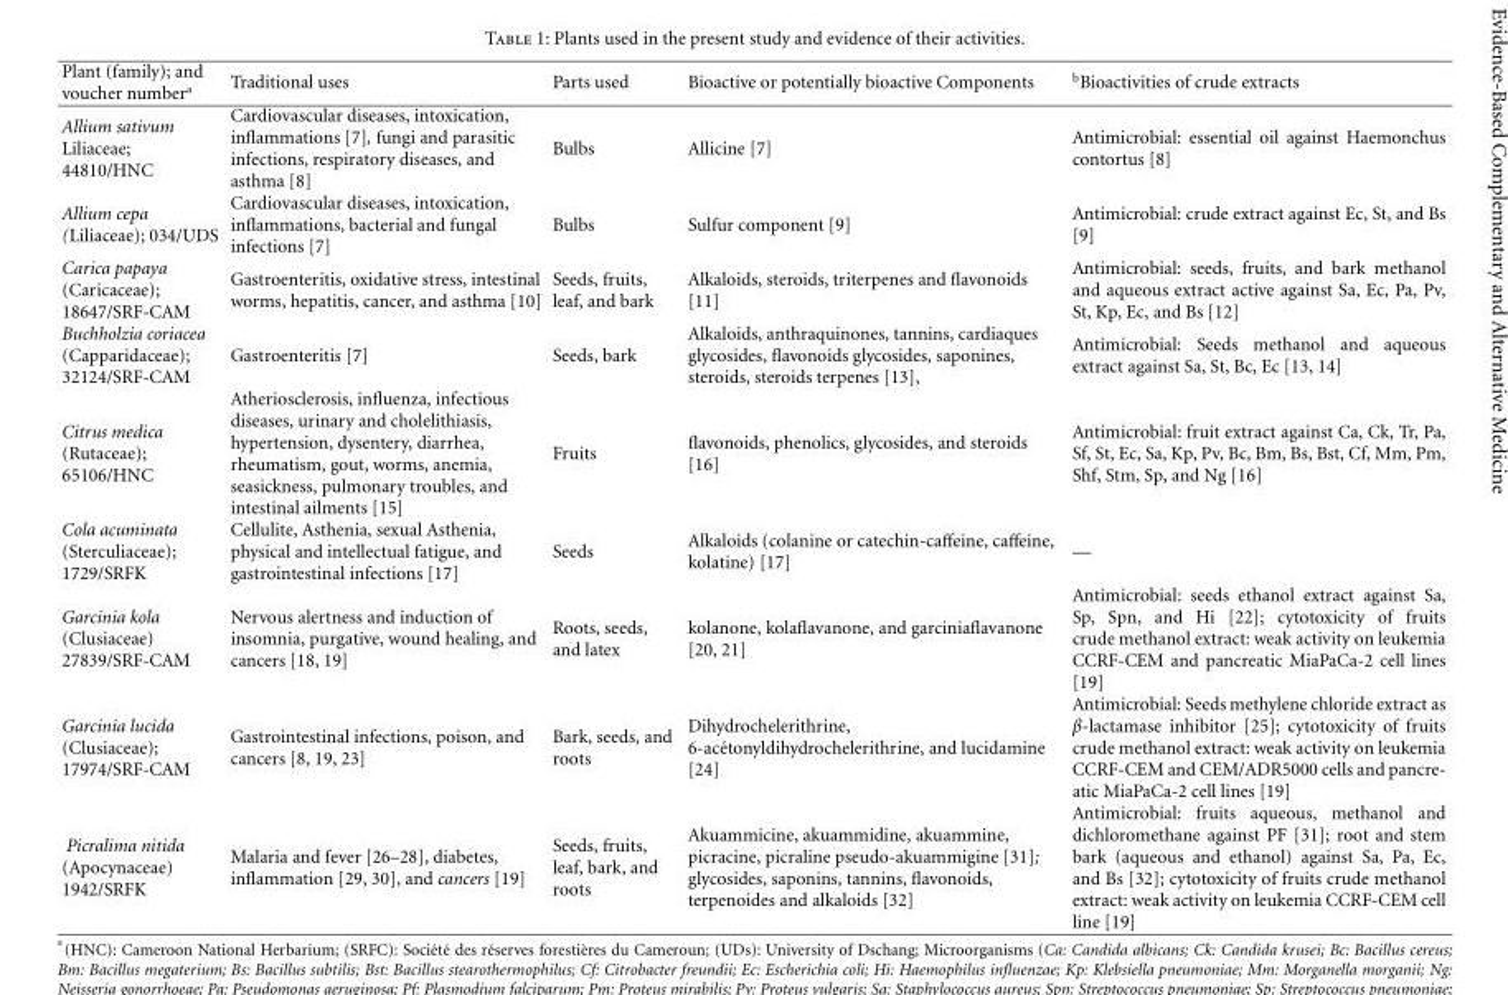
<table><thead><tr><td>Plant (family); and voucher number<sup>a</sup></td><td>Traditional uses</td><td>Parts used</td><td>Bioactive or potentially bioactive Components</td><td><sup>b</sup>Bioactivities of crude extracts</td></tr></thead><tbody><tr><td>Allium sativum Liliaceae; 44810/HNC</td><td>Cardiovascular diseases, intoxication, inflammations [7], fungi and parasitic infections, respiratory diseases, and asthma [8]</td><td>Bulbs</td><td>Allicine [7]</td><td>Antimicrobial: essential oil against Haemonchus contortus [8]</td></tr><tr><td>Allium cepa (Liliaceae); 034/UDS</td><td>Cardiovascular diseases, intoxication, inflammations, bacterial and fungal infections [7]</td><td>Bulbs</td><td>Sulfur component [9]</td><td>Antimicrobial: crude extract against Ec, St, and Bs [9]</td></tr><tr><td>Carica papaya (Caricaceae); 18647/SRF-CAM</td><td>Gastroenteritis, oxidative stress, intestinal worms, hepatitis, cancer, and asthma [10]</td><td>Seeds, fruits, leaf, and bark</td><td>Alkaloids, steroids, triterpenes and flavonoids [11]</td><td>Antimicrobial: seeds, fruits, and bark methanol and aqueous extract active against Sa, Ec, Pa, Pv, St, Kp, Ec, and Bs [12]</td></tr><tr><td>Buchholzia coriacea (Capparidaceae); 32124/SRF-CAM</td><td>Gastroenteritis [7]</td><td>Seeds, bark</td><td>Alkaloids, anthraquinones, tannins, cardiaques glycosides, flavonoids glycosides, saponines, steroids, steroids terpenes [13],</td><td>Antimicrobial: Seeds methanol and aqueous extract against Sa, St, Bc, Ec [13, 14]</td></tr><tr><td>Citrus medica (Rutaceae); 65106/HNC</td><td>Atheriosclerosis, influenza, infectious diseases, urinary and cholelithiasis, hypertension, dysentery, diarrhea, rheumatism, gout, worms, anemia, seasickness, pulmonary troubles, and intestinal ailments [15]</td><td>Fruits</td><td>flavonoids, phenolics, glycosides, and steroids [16]</td><td>Antimicrobial: fruit extract against Ca, Ck, Tr, Pa, Sf, St, Ec, Sa, Kp, Pv, Bc, Bm, Bs, Bst, Cf, Mm, Pm, Shf, Stm, Sp, and Ng [16]</td></tr><tr><td>Cola acuminata (Sterculiaceae); 1729/SRFK</td><td>Cellulite, Asthenia, sexual Asthenia, physical and intellectual fatigue, and gastrointestinal infections [17]</td><td>Seeds</td><td>Alkaloids (colanine or catechin-caffeine, caffeine, kolatine) [17]</td><td>—</td></tr><tr><td>Garcinia kola (Clusiaceae) 27839/SRF-CAM</td><td>Nervous alertness and induction of insomnia, purgative, wound healing, and cancers [18, 19]</td><td>Roots, seeds, and latex</td><td>kolanone, kolaflavanone, and garciniaflavanone [20, 21]</td><td>Antimicrobial: seeds ethanol extract against Sa, Sp, Spn, and Hi [22]; cytotoxicity of fruits crude methanol extract: weak activity on leukemia CCRF-CEM and pancreatic MiaPaCa-2 cell lines [19]</td></tr><tr><td>Garcinia lucida (Clusiaceae); 17974/SRF-CAM</td><td>Gastrointestinal infections, poison, and cancers [8, 19, 23]</td><td>Bark, seeds, and roots</td><td>Dihydrochelerithrine, 6-ac´etonyldihydrochelerithrine, and lucidamine [24]</td><td>Antimicrobial: Seeds methylene chloride extract as β-lactamase inhibitor [25]; cytotoxicity of fruits crude methanol extract: weak activity on leukemia CCRF-CEM and CEM/ADR5000 cells and pancre- atic MiaPaCa-2 cell lines [19]</td></tr><tr><td>Picralima nitida (Apocynaceae) 1942/SRFK</td><td>Malaria and fever [26–28], diabetes, inflammation [29, 30], and cancers [19]</td><td>Seeds, fruits, leaf, bark, and roots</td><td>Akuammicine, akuammidine, akuammine, picracine, picraline pseudo-akuammigine [31]; glycosides, saponins, tannins, flavonoids, terpenoides and alkaloids [32]</td><td>Antimicrobial: fruits aqueous, methanol and dichloromethane against PF [31]; root and stem bark (aqueous and ethanol) against Sa, Pa, Ec, and Bs [32]; cytotoxicity of fruits crude methanol extract: weak activity on leukemia CCRF-CEM cell line [19]</td></tr></tbody></table>